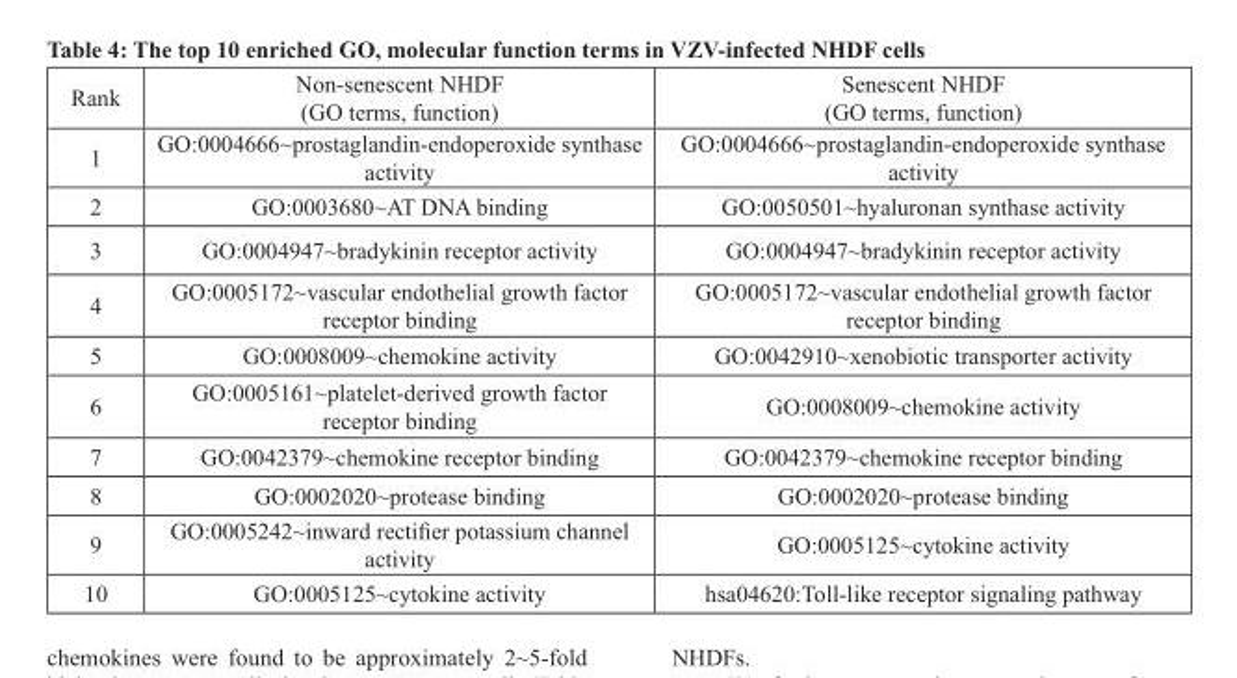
<table><thead><tr><td>Rank</td><td>Non-senescent NHDF (GO terms, function)</td><td>Senescent NHDF (GO terms, function)</td></tr></thead><tbody><tr><td>1</td><td>GO:0004666~prostaglandin-endoperoxide synthase activity</td><td>GO:0004666~prostaglandin-endoperoxide synthase activity</td></tr><tr><td>2</td><td>GO:0003680~AT DNA binding</td><td>GO:0050501~hyaluronan synthase activity</td></tr><tr><td>3</td><td>GO:0004947~bradykinin receptor activity</td><td>GO:0004947~bradykinin receptor activity</td></tr><tr><td>4</td><td>GO:0005172~vascular endothelial growth factor receptor binding</td><td>GO:0005172~vascular endothelial growth factor receptor binding</td></tr><tr><td>5</td><td>GO:0008009~chemokine activity</td><td>GO:0042910~xenobiotic transporter activity</td></tr><tr><td>6</td><td>GO:0005161~platelet-derived growth factor receptor binding</td><td>GO:0008009~chemokine activity</td></tr><tr><td>7</td><td>GO:0042379~chemokine receptor binding</td><td>GO:0042379~chemokine receptor binding</td></tr><tr><td>8</td><td>GO:0002020~protease binding</td><td>GO:0002020~protease binding</td></tr><tr><td>9</td><td>GO:0005242~inward rectifier potassium channel activity</td><td>GO:0005125~cytokine activity</td></tr><tr><td>10</td><td>GO:0005125~cytokine activity</td><td>hsa04620:Toll-like receptor signaling pathway</td></tr></tbody></table>